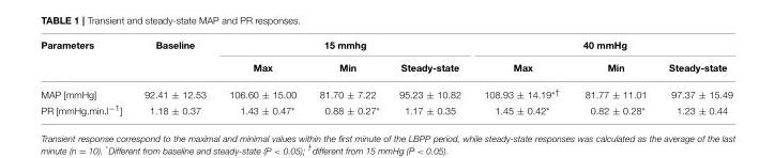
<table><thead><tr><td rowspan="2">Parameters</td><td rowspan="2">Baseline</td><td colspan="3">15 mmhg</td><td colspan="3">40 mmHg</td></tr><tr><td>Max</td><td>Min</td><td>Steady-state</td><td>Max</td><td>Min</td><td>Steady-state</td></tr></thead><tbody><tr><td>MAP [mmHg]</td><td>92.41 ± 12.53</td><td>106.60 ± 15.00</td><td>81.70 ± 7.22</td><td>95.23 ± 10.82</td><td>108.93 ± 14.19<sup>*†</sup></td><td>81.77 ± 11.01</td><td>97.37 ± 15.49</td></tr><tr><td>PR [mmHg.min.l<sup>−1</sup>]</td><td>1.18 ± 0.37</td><td>1.43 ± 0.47*</td><td>0.88 ± 0.27*</td><td>1.17 ± 0.35</td><td>1.45 ± 0.42*</td><td>0.82 ± 0.28*</td><td>1.23 ± 0.44</td></tr></tbody></table>